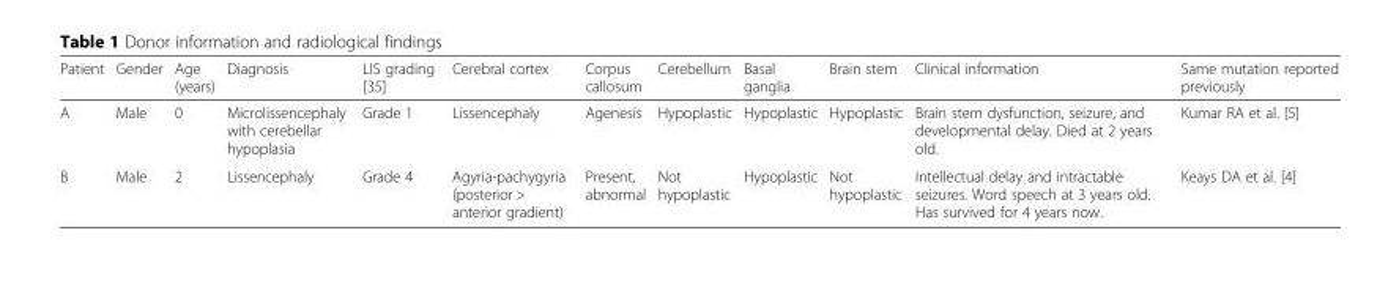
<table><thead><tr><td>Patient</td><td>Gender</td><td>Age (years)</td><td>Diagnosis</td><td>LIS grading [35]</td><td>Cerebral cortex</td><td>Corpus callosum</td><td>Cerebellum</td><td>Basal ganglia</td><td>Brain stem</td><td>Clinical information</td><td>Same mutation reported previously</td></tr></thead><tbody><tr><td>A</td><td>Male</td><td>0</td><td>Microlissencephaly with cerebellar hypoplasia</td><td>Grade 1</td><td>Lissencephaly</td><td>Agenesis</td><td>Hypoplastic</td><td>Hypoplastic</td><td>Hypoplastic</td><td>Brain stem dysfunction, seizure, and developmental delay. Died at 2 years old.</td><td>Kumar RA et al. [5]</td></tr><tr><td>B</td><td>Male</td><td>2</td><td>Lissencephaly</td><td>Grade 4</td><td>Agyria-pachygyria (posterior &gt; anterior gradient)</td><td>Present, abnormal</td><td>Not hypoplastic</td><td>Hypoplastic</td><td>Not hypoplastic</td><td>Intellectual delay and intractable seizures. Word speech at 3 years old. Has survived for 4 years now.</td><td>Keays DA et al. [4]</td></tr></tbody></table>